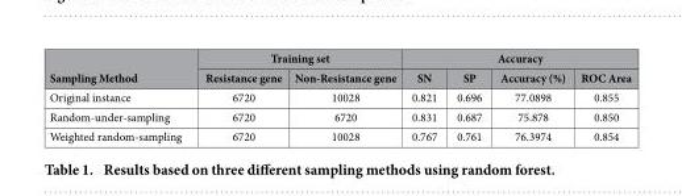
<table><thead><tr><td rowspan="2">Sampling Method</td><td colspan="2">Training set</td><td colspan="4">Accuracy</td></tr><tr><td>Resistance gene</td><td>Non-Resistance gene</td><td>SN</td><td>SP</td><td>Accuracy (%)</td><td>ROC Area</td></tr></thead><tbody><tr><td>Original instance</td><td>6720</td><td>10028</td><td>0.821</td><td>0.696</td><td>77.0898</td><td>0.855</td></tr><tr><td>Random-under-sampling</td><td>6720</td><td>6720</td><td>0.831</td><td>0.687</td><td>75.878</td><td>0.850</td></tr><tr><td>Weighted random-sampling</td><td>6720</td><td>10028</td><td>0.767</td><td>0.761</td><td>76.3974</td><td>0.854</td></tr></tbody></table>